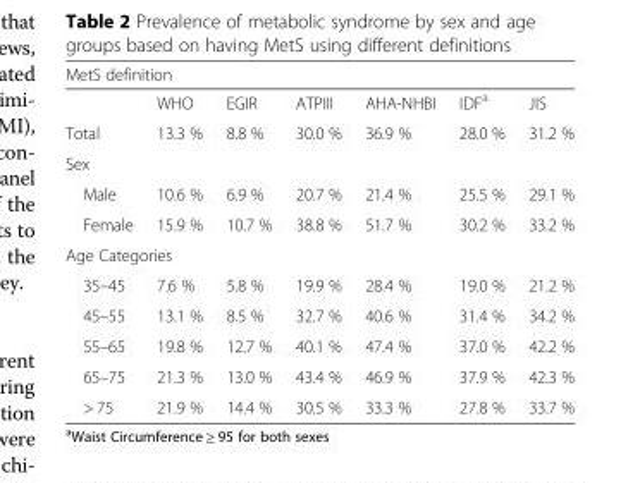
<table><thead><tr><td colspan="7">MetS definition</td></tr><tr><td></td><td>WHO</td><td>EGIR</td><td>ATPIII</td><td>AHA-NHBI</td><td>IDF<sup>a</sup></td><td>JIS</td></tr></thead><tbody><tr><td>Total</td><td>13.3 %</td><td>8.8 %</td><td>30.0 %</td><td>36.9 %</td><td>28.0 %</td><td>31.2 %</td></tr><tr><td colspan="7">Sex</td></tr><tr><td>Male</td><td>10.6 %</td><td>6.9 %</td><td>20.7 %</td><td>21.4 %</td><td>25.5 %</td><td>29.1 %</td></tr><tr><td>Female</td><td>15.9 %</td><td>10.7 %</td><td>38.8 %</td><td>51.7 %</td><td>30.2 %</td><td>33.2 %</td></tr><tr><td colspan="7">Age Categories</td></tr><tr><td>35–45</td><td>7.6 %</td><td>5.8 %</td><td>19.9 %</td><td>28.4 %</td><td>19.0 %</td><td>21.2 %</td></tr><tr><td>45–55</td><td>13.1 %</td><td>8.5 %</td><td>32.7 %</td><td>40.6 %</td><td>31.4 %</td><td>34.2 %</td></tr><tr><td>55–65</td><td>19.8 %</td><td>12.7 %</td><td>40.1 %</td><td>47.4 %</td><td>37.0 %</td><td>42.2 %</td></tr><tr><td>65–75</td><td>21.3 %</td><td>13.0 %</td><td>43.4 %</td><td>46.9 %</td><td>37.9 %</td><td>42.3 %</td></tr><tr><td>&gt; 75</td><td>21.9 %</td><td>14.4 %</td><td>30.5 %</td><td>33.3 %</td><td>27.8 %</td><td>33.7 %</td></tr></tbody></table>